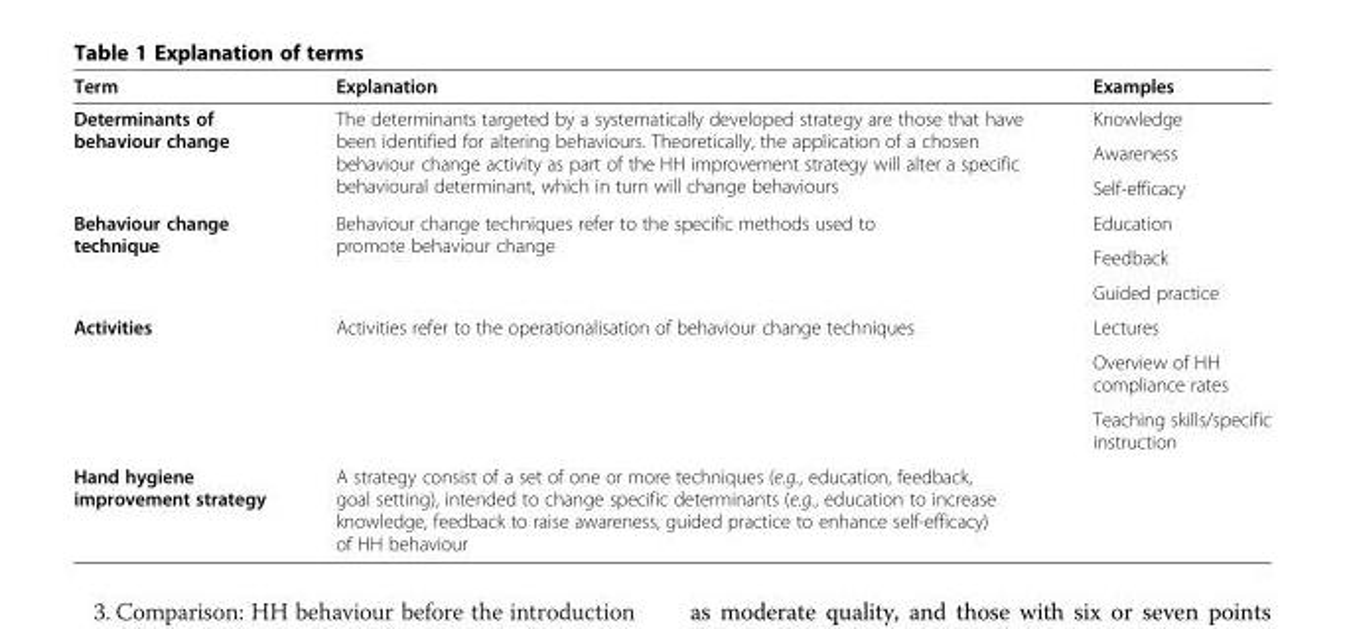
<table><thead><tr><td>Term</td><td>Explanation</td><td>Examples</td></tr></thead><tbody><tr><td rowspan="3">Determinants of behaviour change</td><td rowspan="3">The determinants targeted by a systematically developed strategy are those that have been identified for altering behaviours. Theoretically, the application of a chosen behaviour change activity as part of the HH improvement strategy will alter a specific behavioural determinant, which in turn will change behaviours</td><td>Knowledge</td></tr><tr><td>Awareness</td></tr><tr><td>Self-efficacy</td></tr><tr><td rowspan="3">Behaviour change technique</td><td rowspan="3">Behaviour change techniques refer to the specific methods used to promote behaviour change</td><td>Education</td></tr><tr><td>Feedback</td></tr><tr><td>Guided practice</td></tr><tr><td rowspan="3">Activities</td><td rowspan="3">Activities refer to the operationalisation of behaviour change techniques</td><td>Lectures</td></tr><tr><td>Overview of HH compliance rates</td></tr><tr><td>Teaching skills/specific instruction</td></tr><tr><td>Hand hygiene improvement strategy</td><td>A strategy consist of a set of one or more techniques (e.g., education, feedback, goal setting), intended to change specific determinants (e.g., education to increase knowledge, feedback to raise awareness, guided practice to enhance self-efficacy) of HH behaviour</td><td></td></tr></tbody></table>